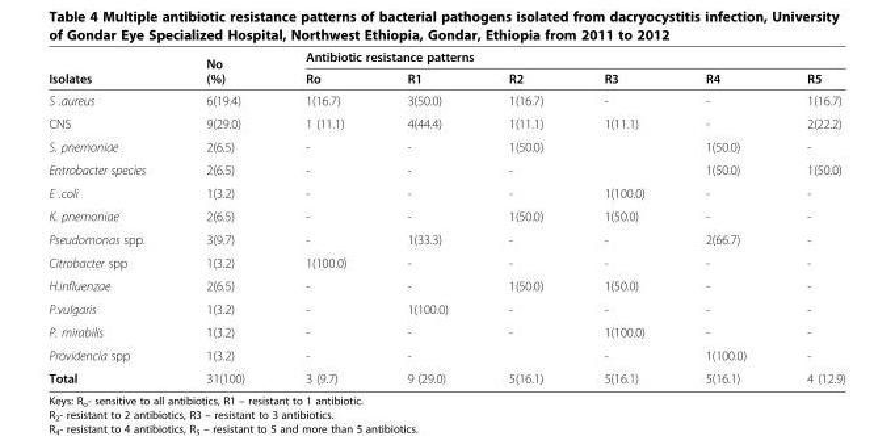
<table><thead><tr><td rowspan="2">Isolates</td><td rowspan="2">No (%)</td><td colspan="6">Antibiotic resistance patterns</td></tr><tr><td>Ro</td><td>R1</td><td>R2</td><td>R3</td><td>R4</td><td>R5</td></tr></thead><tbody><tr><td>S .aureus</td><td>6(19.4)</td><td>1(16.7)</td><td>3(50.0)</td><td>1(16.7)</td><td>-</td><td>-</td><td>1(16.7)</td></tr><tr><td>CNS</td><td>9(29.0)</td><td>1 (11.1)</td><td>4(44.4)</td><td>1(11.1)</td><td>1(11.1)</td><td>-</td><td>2(22.2)</td></tr><tr><td>S. pnemoniae</td><td>2(6.5)</td><td>-</td><td>-</td><td>1(50.0)</td><td></td><td>1(50.0)</td><td>-</td></tr><tr><td>Entrobacter species</td><td>2(6.5)</td><td>-</td><td>-</td><td>-</td><td></td><td>1(50.0)</td><td>1(50.0)</td></tr><tr><td>E .coli</td><td>1(3.2)</td><td>-</td><td>-</td><td>-</td><td>1(100.0)</td><td>-</td><td>-</td></tr><tr><td>K. pnemoniae</td><td>2(6.5)</td><td>-</td><td>-</td><td>1(50.0)</td><td>1(50.0)</td><td>-</td><td>-</td></tr><tr><td>Pseudomonas spp.</td><td>3(9.7)</td><td>-</td><td>1(33.3)</td><td>-</td><td>-</td><td>2(66.7)</td><td>-</td></tr><tr><td>Citrobacter spp</td><td>1(3.2)</td><td>1(100.0)</td><td>-</td><td>-</td><td>-</td><td>-</td><td>-</td></tr><tr><td>H.influenzae</td><td>2(6.5)</td><td>-</td><td>-</td><td>1(50.0)</td><td>1(50.0)</td><td>-</td><td>-</td></tr><tr><td>P.vulgaris</td><td>1(3.2)</td><td>-</td><td>1(100.0)</td><td>-</td><td>-</td><td>-</td><td>-</td></tr><tr><td>P. mirabilis</td><td>1(3.2)</td><td>-</td><td>-</td><td>-</td><td>1(100.0)</td><td>-</td><td>-</td></tr><tr><td>Providencia spp</td><td>1(3.2)</td><td>-</td><td>-</td><td></td><td>-</td><td>1(100.0)</td><td>-</td></tr><tr><td>Total</td><td>31(100)</td><td>3 (9.7)</td><td>9 (29.0)</td><td>5(16.1)</td><td>5(16.1)</td><td>5(16.1)</td><td>4 (12.9)</td></tr></tbody></table>